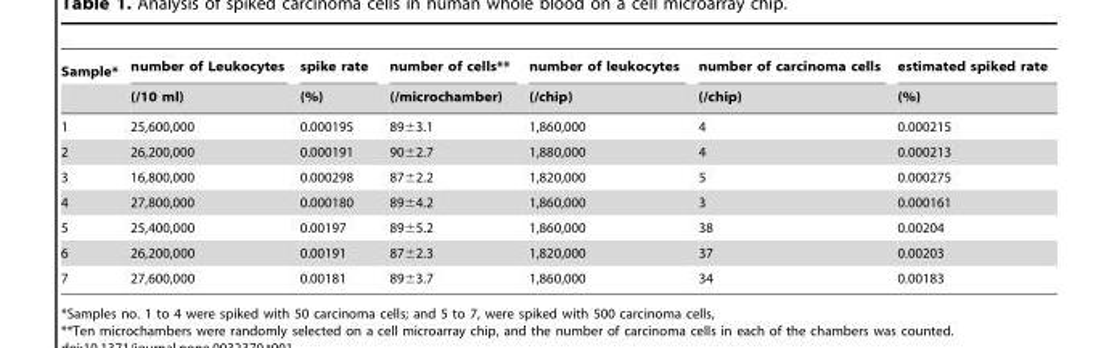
<table><thead><tr><td rowspan="2">Sample*</td><td rowspan="2">number of Leukocytes (/10 ml)</td><td rowspan="2">spike rate (%)</td><td rowspan="2">number of cells** (/microchamber)</td><td rowspan="2">number of leukocytes (/chip)</td><td rowspan="2">number of carcinoma cells (/chip)</td><td rowspan="2">estimated spiked rate (%)</td></tr><tr></tr></thead><tbody><tr><td>1</td><td>25,600,000</td><td>0.000195</td><td>89±3.1</td><td>1,860,000</td><td>4</td><td>0.000215</td></tr><tr><td>2</td><td>26,200,000</td><td>0.000191</td><td>90±2.7</td><td>1,880,000</td><td>4</td><td>0.000213</td></tr><tr><td>3</td><td>16,800,000</td><td>0.000298</td><td>87±2.2</td><td>1,820,000</td><td>5</td><td>0.000275</td></tr><tr><td>4</td><td>27,800,000</td><td>0.000180</td><td>89±4.2</td><td>1,860,000</td><td>3</td><td>0.000161</td></tr><tr><td>5</td><td>25,400,000</td><td>0.00197</td><td>89±5.2</td><td>1,860,000</td><td>38</td><td>0.00204</td></tr><tr><td>6</td><td>26,200,000</td><td>0.00191</td><td>87±2.3</td><td>1,820,000</td><td>37</td><td>0.00203</td></tr><tr><td>7</td><td>27,600,000</td><td>0.00181</td><td>89±3.7</td><td>1,860,000</td><td>34</td><td>0.00183</td></tr></tbody></table>